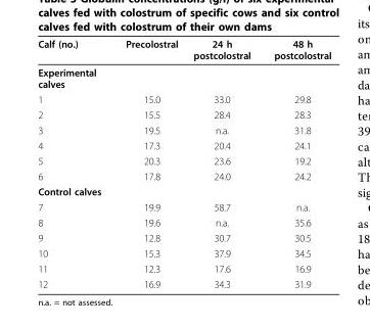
<table><thead><tr><td>Calf (no.)</td><td>Precolostral</td><td>24 h postcolostral</td><td>48 h postcolostral</td></tr></thead><tbody><tr><td colspan="4">Experimental calves</td></tr><tr><td>1</td><td>15.0</td><td>33.0</td><td>29.8</td></tr><tr><td>2</td><td>15.5</td><td>28.4</td><td>28.3</td></tr><tr><td>3</td><td>19.5</td><td>n.a.</td><td>31.8</td></tr><tr><td>4</td><td>17.3</td><td>20.4</td><td>24.1</td></tr><tr><td>5</td><td>20.3</td><td>23.6</td><td>19.2</td></tr><tr><td>6</td><td>17.8</td><td>24.0</td><td>24.2</td></tr><tr><td colspan="4">Control calves</td></tr><tr><td>7</td><td>19.9</td><td>58.7</td><td>n.a.</td></tr><tr><td>8</td><td>19.6</td><td>n.a.</td><td>35.6</td></tr><tr><td>9</td><td>12.8</td><td>30.7</td><td>30.5</td></tr><tr><td>10</td><td>15.3</td><td>37.9</td><td>34.5</td></tr><tr><td>11</td><td>12.3</td><td>17.6</td><td>16.9</td></tr><tr><td>12</td><td>16.9</td><td>34.3</td><td>31.9</td></tr></tbody></table>